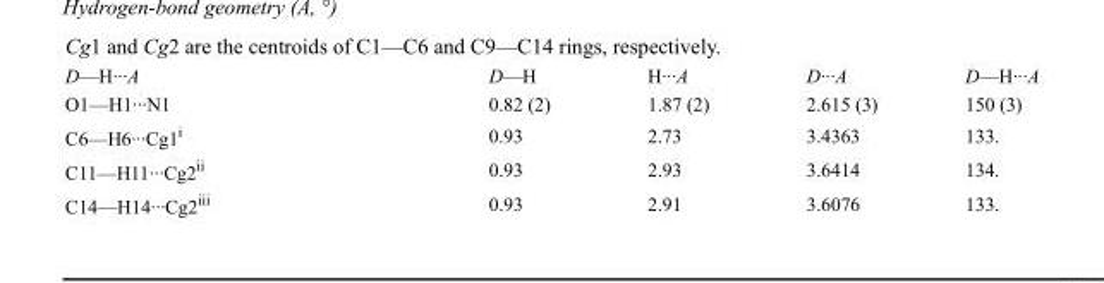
<table><tbody><tr><td>D—H···A</td><td>D—H</td><td>H···A</td><td>D···A</td><td>D—H···A</td></tr><tr><td>O1—H1···N1</td><td>0.82 (2)</td><td>1.87 (2)</td><td>2.615 (3)</td><td>150 (3)</td></tr><tr><td>C6—H6···Cg1<sup>i</sup></td><td>0.93</td><td>2.73</td><td>3.4363</td><td>133.</td></tr><tr><td>C11—H11···Cg2<sup>ii</sup></td><td>0.93</td><td>2.93</td><td>3.6414</td><td>134.</td></tr><tr><td>C14—H14···Cg2<sup>iii</sup></td><td>0.93</td><td>2.91</td><td>3.6076</td><td>133.</td></tr></tbody></table>